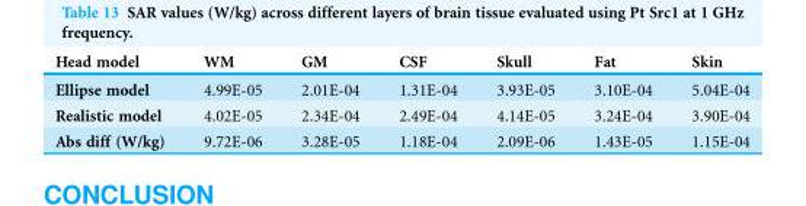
<table><thead><tr><td>Head model</td><td>WM</td><td>GM</td><td>CSF</td><td>Skull</td><td>Fat</td><td>Skin</td></tr></thead><tbody><tr><td>Ellipse model</td><td>4.99E-05</td><td>2.01E-04</td><td>1.31E-04</td><td>3.93E-05</td><td>3.10E-04</td><td>5.04E-04</td></tr><tr><td>Realistic model</td><td>4.02E-05</td><td>2.34E-04</td><td>2.49E-04</td><td>4.14E-05</td><td>3.24E-04</td><td>3.90E-04</td></tr><tr><td>Abs diff (W/kg)</td><td>9.72E-06</td><td>3.28E-05</td><td>1.18E-04</td><td>2.09E-06</td><td>1.43E-05</td><td>1.15E-04</td></tr></tbody></table>